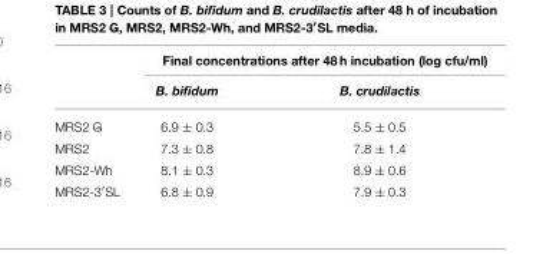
<table><thead><tr><td rowspan="2"></td><td colspan="2">Final concentrations after 48 h incubation (log cfu/ml)</td></tr><tr><td>B. bifidum</td><td>B. crudilactis</td></tr></thead><tbody><tr><td>MRS2 G</td><td>6.9 ± 0.3</td><td>5.5 ± 0.5</td></tr><tr><td>MRS2</td><td>7.3 ± 0.8</td><td>7.8 ± 1.4</td></tr><tr><td>MRS2-Wh</td><td>8.1 ± 0.3</td><td>8.9 ± 0.6</td></tr><tr><td>MRS2-3′SL</td><td>6.8 ± 0.9</td><td>7.9 ± 0.3</td></tr></tbody></table>